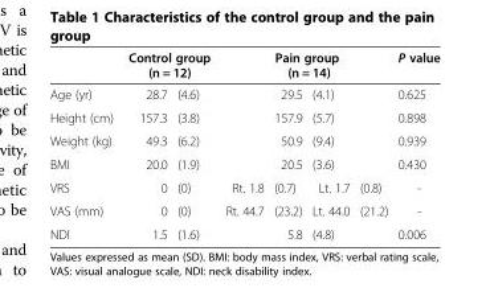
<table><thead><tr><td></td><td colspan="2">Control group (n = 12)</td><td colspan="4">Pain group (n = 14)</td><td>P value</td></tr></thead><tbody><tr><td>Age (yr)</td><td>28.7</td><td>(4.6)</td><td colspan="2">29.5</td><td colspan="2">(4.1)</td><td>0.625</td></tr><tr><td>Height (cm)</td><td>157.3</td><td>(3.8)</td><td colspan="2">157.9</td><td colspan="2">(5.7)</td><td>0.898</td></tr><tr><td>Weight (kg)</td><td>49.3</td><td>(6.2)</td><td colspan="2">50.9</td><td colspan="2">(9.4)</td><td>0.939</td></tr><tr><td>BMI</td><td>20.0</td><td>(1.9)</td><td colspan="2">20.5</td><td colspan="2">(3.6)</td><td>0.430</td></tr><tr><td>VRS</td><td>0</td><td>(0)</td><td>Rt. 1.8</td><td>(0.7)</td><td>Lt. 1.7</td><td>(0.8)</td><td>-</td></tr><tr><td>VAS (mm)</td><td>0</td><td>(0)</td><td>Rt. 44.7</td><td>(23.2)</td><td>Lt. 44.0</td><td>(21.2)</td><td>-</td></tr><tr><td>NDI</td><td>1.5</td><td>(1.6)</td><td colspan="2">5.8</td><td colspan="2">(4.8)</td><td>0.006</td></tr></tbody></table>